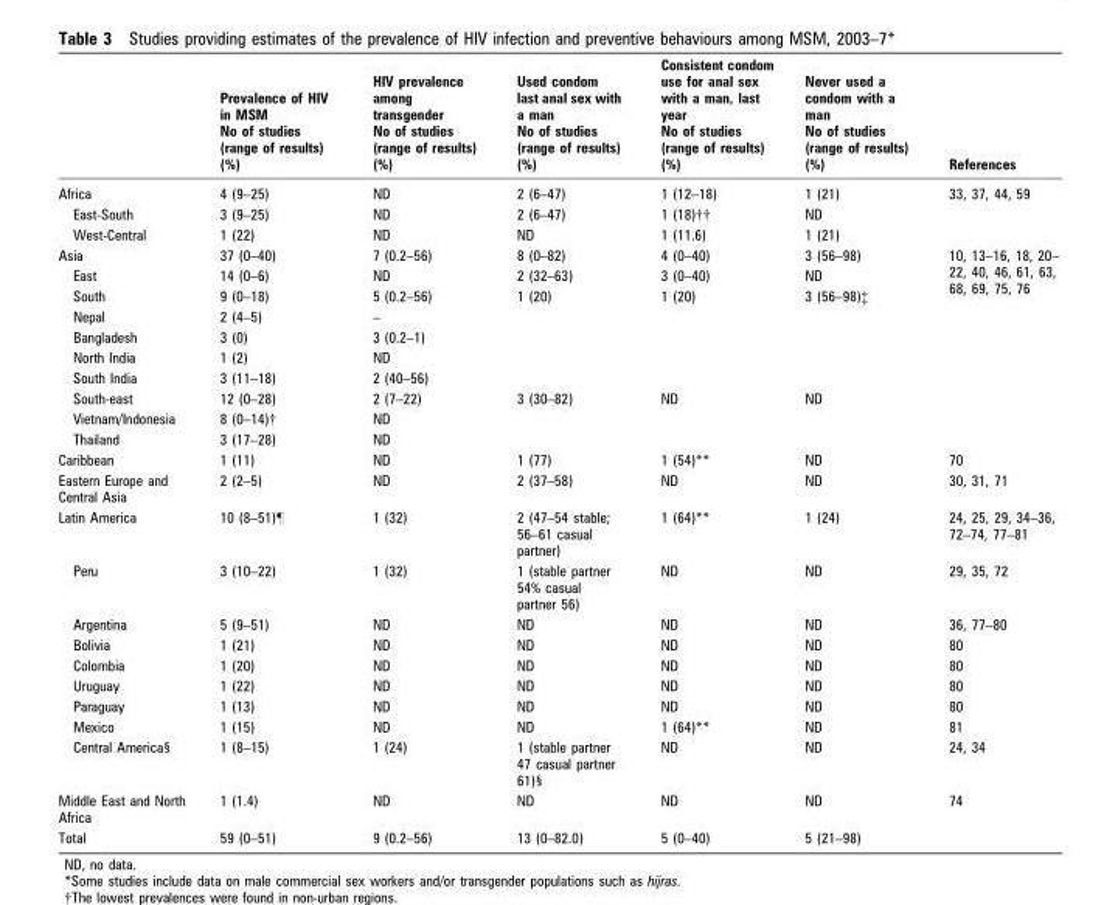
<table><thead><tr><td></td><td>Prevalence of HIV in MSM No of studies (range of results) (%)</td><td>HIV prevalence among transgender No of studies (range of results) (%)</td><td>Used condom last anal sex with a man No of studies (range of results) (%)</td><td>Consistent condom use for anal sex with a man, last year No of studies (range of results) (%)</td><td>Never used a condom with a man No of studies (range of results) (%)</td><td>References</td></tr></thead><tbody><tr><td>Africa</td><td>4 (9–25)</td><td>ND</td><td>2 (6–47)</td><td>1 (12–18)</td><td>1 (21)</td><td>33, 37, 44, 59</td></tr><tr><td>East-South</td><td>3 (9–25)</td><td>ND</td><td>2 (6–47)</td><td>1 (18)††</td><td>ND</td><td></td></tr><tr><td>West-Central</td><td>1 (22)</td><td>ND</td><td>ND</td><td>1 (11.6)</td><td>1 (21)</td><td></td></tr><tr><td>Asia</td><td>37 (0–40)</td><td>7 (0.2–56)</td><td>8 (0–82)</td><td>4 (0–40)</td><td>3 (56–98)</td><td rowspan="3">10, 13–16, 18, 20– 22, 40, 46, 61, 63, 68, 69, 75, 76</td></tr><tr><td>East</td><td>14 (0–6)</td><td>ND</td><td>2 (32–63)</td><td>3 (0–40)</td><td>ND</td></tr><tr><td>South</td><td>9 (0–18)</td><td>5 (0.2–56)</td><td>1 (20)</td><td>1 (20)</td><td>3 (56–98)‡</td></tr><tr><td>Nepal</td><td>2 (4–5)</td><td>–</td><td></td><td></td><td></td><td></td></tr><tr><td>Bangladesh</td><td>3 (0)</td><td>3 (0.2–1)</td><td></td><td></td><td></td><td></td></tr><tr><td>North India</td><td>1 (2)</td><td>ND</td><td></td><td></td><td></td><td></td></tr><tr><td>South India</td><td>3 (11–18)</td><td>2 (40–56)</td><td></td><td></td><td></td><td></td></tr><tr><td>South-east</td><td>12 (0–28)</td><td>2 (7–22)</td><td>3 (30–82)</td><td>ND</td><td>ND</td><td></td></tr><tr><td>Vietnam/Indonesia</td><td>8 (0–14)†</td><td>ND</td><td></td><td></td><td></td><td></td></tr><tr><td>Thailand</td><td>3 (17–28)</td><td>ND</td><td></td><td></td><td></td><td></td></tr><tr><td>Caribbean</td><td>1 (11)</td><td>ND</td><td>1 (77)</td><td>1 (54)**</td><td>ND</td><td>70</td></tr><tr><td>Eastern Europe and Central Asia</td><td>2 (2–5)</td><td>ND</td><td>2 (37–58)</td><td>ND</td><td>ND</td><td>30, 31, 71</td></tr><tr><td>Latin America</td><td>10 (8–51)¶</td><td>1 (32)</td><td>2 (47–54 stable; 56–61 casual partner)</td><td>1 (64)**</td><td>1 (24)</td><td>24, 25, 29, 34–36, 72–74, 77–81</td></tr><tr><td>Peru</td><td>3 (10–22)</td><td>1 (32)</td><td>1 (stable partner 54% casual partner 56)</td><td>ND</td><td>ND</td><td>29, 35, 72</td></tr><tr><td>Argentina</td><td>5 (9–51)</td><td>ND</td><td>ND</td><td>ND</td><td>ND</td><td>36, 77–80</td></tr><tr><td>Bolivia</td><td>1 (21)</td><td>ND</td><td>ND</td><td>ND</td><td>ND</td><td>80</td></tr><tr><td>Colombia</td><td>1 (20)</td><td>ND</td><td>ND</td><td>ND</td><td>ND</td><td>80</td></tr><tr><td>Uruguay</td><td>1 (22)</td><td>ND</td><td>ND</td><td>ND</td><td>ND</td><td>80</td></tr><tr><td>Paraguay</td><td>1 (13)</td><td>ND</td><td>ND</td><td>ND</td><td>ND</td><td>80</td></tr><tr><td>Mexico</td><td>1 (15)</td><td>ND</td><td>ND</td><td>1 (64)**</td><td>ND</td><td>81</td></tr><tr><td>Central America§</td><td>1 (8–15)</td><td>1 (24)</td><td>1 (stable partner 47 casual partner 61)§</td><td>ND</td><td>ND</td><td>24, 34</td></tr><tr><td>Middle East and North Africa</td><td>1 (1.4)</td><td>ND</td><td>ND</td><td>ND</td><td>ND</td><td>74</td></tr><tr><td>Total</td><td>59 (0–51)</td><td>9 (0.2–56)</td><td>13 (0–82.0)</td><td>5 (0–40)</td><td>5 (21–98)</td><td></td></tr></tbody></table>